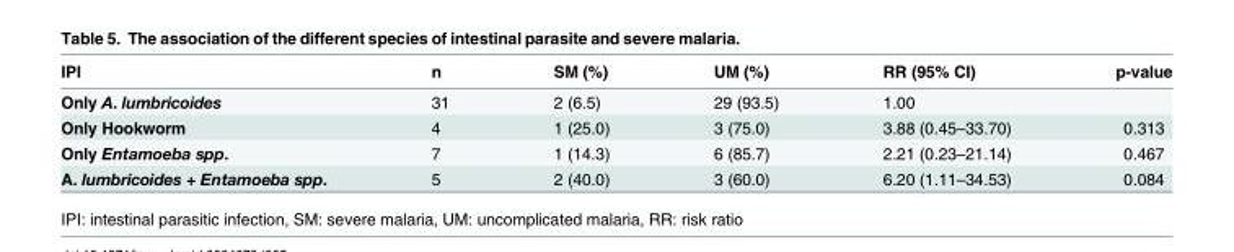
<table><thead><tr><td>IPI</td><td>n</td><td>SM (%)</td><td>UM (%)</td><td>RR (95% CI)</td><td>p-value</td></tr></thead><tbody><tr><td>Only A. lumbricoides</td><td>31</td><td>2 (6.5)</td><td>29 (93.5)</td><td>1.00</td><td></td></tr><tr><td>Only Hookworm</td><td>4</td><td>1 (25.0)</td><td>3 (75.0)</td><td>3.88 (0.45–33.70)</td><td>0.313</td></tr><tr><td>Only Entamoeba spp.</td><td>7</td><td>1 (14.3)</td><td>6 (85.7)</td><td>2.21 (0.23–21.14)</td><td>0.467</td></tr><tr><td>A. lumbricoides + Entamoeba spp.</td><td>5</td><td>2 (40.0)</td><td>3 (60.0)</td><td>6.20 (1.11–34.53)</td><td>0.084</td></tr></tbody></table>